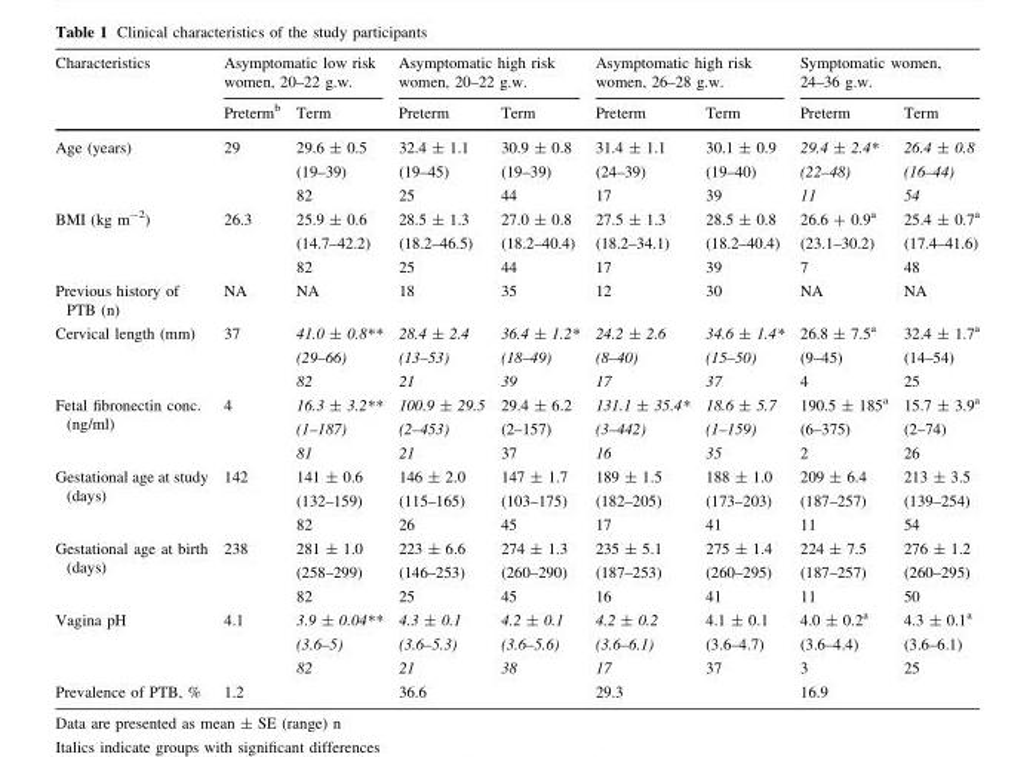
<table><thead><tr><td rowspan="2">Characteristics</td><td colspan="2">Asymptomatic low risk women, 20–22 g.w.</td><td colspan="2">Asymptomatic high risk women, 20–22 g.w.</td><td colspan="2">Asymptomatic high risk women, 26–28 g.w.</td><td colspan="2">Symptomatic women, 24–36 g.w.</td></tr><tr><td>Preterm<sup>b</sup></td><td>Term</td><td>Preterm</td><td>Term</td><td>Preterm</td><td>Term</td><td>Preterm</td><td>Term</td></tr></thead><tbody><tr><td>Age (years)</td><td>29</td><td>29.6 ± 0.5 (19–39) 82</td><td>32.4 ± 1.1 (19–45) 25</td><td>30.9 ± 0.8 (19–39) 44</td><td>31.4 ± 1.1 (24–39) 17</td><td>30.1 ± 0.9 (19–40) 39</td><td>29.4 ± 2.4* (22–48) 11</td><td>26.4 ± 0.8 (16–44) 54</td></tr><tr><td>BMI (kg m<sup>-2</sup>)</td><td>26.3</td><td>25.9 ± 0.6 (14.7–42.2) 82</td><td>28.5 ± 1.3 (18.2–46.5) 25</td><td>27.0 ± 0.8 (18.2–40.4) 44</td><td>27.5 ± 1.3 (18.2–34.1) 17</td><td>28.5 ± 0.8 (18.2–40.4) 39</td><td>26.6 + 0.9<sup>a</sup> (23.1–30.2) 7</td><td>25.4 ± 0.7<sup>a</sup> (17.4–41.6) 48</td></tr><tr><td>Previous history of PTB (n)</td><td>NA</td><td>NA</td><td>18</td><td>35</td><td>12</td><td>30</td><td>NA</td><td>NA</td></tr><tr><td>Cervical length (mm)</td><td>37</td><td>41.0 ± 0.8** (29–66) 82</td><td>28.4 ± 2.4 (13–53) 21</td><td>36.4 ± 1.2* (18–49) 39</td><td>24.2 ± 2.6 (8–40) 17</td><td>34.6 ± 1.4* (15–50) 37</td><td>26.8 ± 7.5<sup>a</sup> (9–45) 4</td><td>32.4 ± 1.7<sup>a</sup> (14–54) 25</td></tr><tr><td>Fetal fibronectin conc. (ng/ml)</td><td>4</td><td>16.3 ± 3.2** (1–187) 81</td><td>100.9 ± 29.5 (2–453) 21</td><td>29.4 ± 6.2 (2–157) 37</td><td>131.1 ± 35.4* (3–442) 16</td><td>18.6 ± 5.7 (1–159) 35</td><td>190.5 ± 185<sup>a</sup> (6–375) 2</td><td>15.7 ± 3.9<sup>a</sup> (2–74) 26</td></tr><tr><td>Gestational age at study (days)</td><td>142</td><td>141 ± 0.6 (132–159) 82</td><td>146 ± 2.0 (115–165) 26</td><td>147 ± 1.7 (103–175) 45</td><td>189 ± 1.5 (182–205) 17</td><td>188 ± 1.0 (173–203) 41</td><td>209 ± 6.4 (187–257) 11</td><td>213 ± 3.5 (139–254) 54</td></tr><tr><td>Gestational age at birth (days)</td><td>238</td><td>281 ± 1.0 (258–299) 82</td><td>223 ± 6.6 (146–253) 25</td><td>274 ± 1.3 (260–290) 45</td><td>235 ± 5.1 (187–253) 16</td><td>275 ± 1.4 (260–295) 41</td><td>224 ± 7.5 (187–257) 11</td><td>276 ± 1.2 (260–295) 50</td></tr><tr><td>Vagina pH</td><td>4.1</td><td>3.9 ± 0.04** (3.6–5) 82</td><td>4.3 ± 0.1 (3.6–5.3) 21</td><td>4.2 ± 0.1 (3.6–5.6) 38</td><td>4.2 ± 0.2 (3.6–6.1) 17</td><td>4.1 ± 0.1 (3.6–4.7) 37</td><td>4.0 ± 0.2<sup>a</sup> (3.6–4.4) 3</td><td>4.3 ± 0.1<sup>a</sup> (3.6–6.1) 25</td></tr><tr><td>Prevalence of PTB, %</td><td colspan="2">1.2</td><td colspan="2">36.6</td><td colspan="2">29.3</td><td colspan="2">16.9</td></tr></tbody></table>